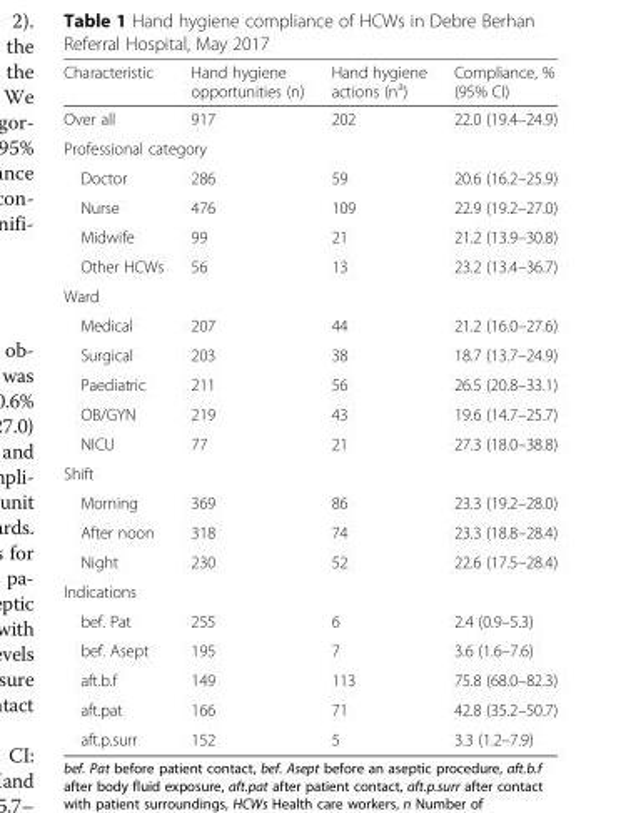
<table><thead><tr><td>Characteristic</td><td>Hand hygiene opportunities (n)</td><td>Hand hygiene actions (n<sup>a</sup>)</td><td>Compliance, % (95% CI)</td></tr></thead><tbody><tr><td>Over all</td><td>917</td><td>202</td><td>22.0 (19.4–24.9)</td></tr><tr><td colspan="4">Professional category</td></tr><tr><td>Doctor</td><td>286</td><td>59</td><td>20.6 (16.2–25.9)</td></tr><tr><td>Nurse</td><td>476</td><td>109</td><td>22.9 (19.2–27.0)</td></tr><tr><td>Midwife</td><td>99</td><td>21</td><td>21.2 (13.9–30.8)</td></tr><tr><td>Other HCWs</td><td>56</td><td>13</td><td>23.2 (13.4–36.7)</td></tr><tr><td colspan="4">Ward</td></tr><tr><td>Medical</td><td>207</td><td>44</td><td>21.2 (16.0–27.6)</td></tr><tr><td>Surgical</td><td>203</td><td>38</td><td>18.7 (13.7–24.9)</td></tr><tr><td>Paediatric</td><td>211</td><td>56</td><td>26.5 (20.8–33.1)</td></tr><tr><td>OB/GYN</td><td>219</td><td>43</td><td>19.6 (14.7–25.7)</td></tr><tr><td>NICU</td><td>77</td><td>21</td><td>27.3 (18.0–38.8)</td></tr><tr><td colspan="4">Shift</td></tr><tr><td>Morning</td><td>369</td><td>86</td><td>23.3 (19.2–28.0)</td></tr><tr><td>After noon</td><td>318</td><td>74</td><td>23.3 (18.8–28.4)</td></tr><tr><td>Night</td><td>230</td><td>52</td><td>22.6 (17.5–28.4)</td></tr><tr><td colspan="4">Indications</td></tr><tr><td>bef. Pat</td><td>255</td><td>6</td><td>2.4 (0.9–5.3)</td></tr><tr><td>bef. Asept</td><td>195</td><td>7</td><td>3.6 (1.6–7.6)</td></tr><tr><td>aft.b.f</td><td>149</td><td>113</td><td>75.8 (68.0–82.3)</td></tr><tr><td>aft.pat</td><td>166</td><td>71</td><td>42.8 (35.2–50.7)</td></tr><tr><td>aft.p.surr</td><td>152</td><td>5</td><td>3.3 (1.2–7.9)</td></tr></tbody></table>